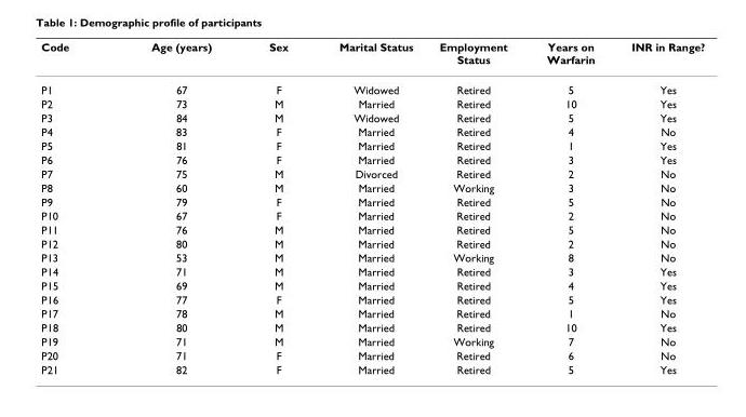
<table><thead><tr><td>Code</td><td>Age (years)</td><td>Sex</td><td>Marital Status</td><td>Employment Status</td><td>Years on Warfarin</td><td>INR in Range?</td></tr></thead><tbody><tr><td>P1</td><td>67</td><td>F</td><td>Widowed</td><td>Retired</td><td>5</td><td>Yes</td></tr><tr><td>P2</td><td>73</td><td>M</td><td>Married</td><td>Retired</td><td>10</td><td>Yes</td></tr><tr><td>P3</td><td>84</td><td>M</td><td>Widowed</td><td>Retired</td><td>5</td><td>Yes</td></tr><tr><td>P4</td><td>83</td><td>F</td><td>Married</td><td>Retired</td><td>4</td><td>No</td></tr><tr><td>P5</td><td>81</td><td>F</td><td>Married</td><td>Retired</td><td>1</td><td>Yes</td></tr><tr><td>P6</td><td>76</td><td>F</td><td>Married</td><td>Retired</td><td>3</td><td>Yes</td></tr><tr><td>P7</td><td>75</td><td>M</td><td>Divorced</td><td>Retired</td><td>2</td><td>No</td></tr><tr><td>P8</td><td>60</td><td>M</td><td>Married</td><td>Working</td><td>3</td><td>No</td></tr><tr><td>P9</td><td>79</td><td>F</td><td>Married</td><td>Retired</td><td>5</td><td>No</td></tr><tr><td>P10</td><td>67</td><td>F</td><td>Married</td><td>Retired</td><td>2</td><td>No</td></tr><tr><td>P11</td><td>76</td><td>M</td><td>Married</td><td>Retired</td><td>5</td><td>No</td></tr><tr><td>P12</td><td>80</td><td>M</td><td>Married</td><td>Retired</td><td>2</td><td>No</td></tr><tr><td>P13</td><td>53</td><td>M</td><td>Married</td><td>Working</td><td>8</td><td>No</td></tr><tr><td>P14</td><td>71</td><td>M</td><td>Married</td><td>Retired</td><td>3</td><td>Yes</td></tr><tr><td>P15</td><td>69</td><td>M</td><td>Married</td><td>Retired</td><td>4</td><td>Yes</td></tr><tr><td>P16</td><td>77</td><td>F</td><td>Married</td><td>Retired</td><td>5</td><td>Yes</td></tr><tr><td>P17</td><td>78</td><td>M</td><td>Married</td><td>Retired</td><td>1</td><td>No</td></tr><tr><td>P18</td><td>80</td><td>M</td><td>Married</td><td>Retired</td><td>10</td><td>Yes</td></tr><tr><td>P19</td><td>71</td><td>M</td><td>Married</td><td>Working</td><td>7</td><td>No</td></tr><tr><td>P20</td><td>71</td><td>F</td><td>Married</td><td>Retired</td><td>6</td><td>No</td></tr><tr><td>P21</td><td>82</td><td>F</td><td>Married</td><td>Retired</td><td>5</td><td>Yes</td></tr></tbody></table>